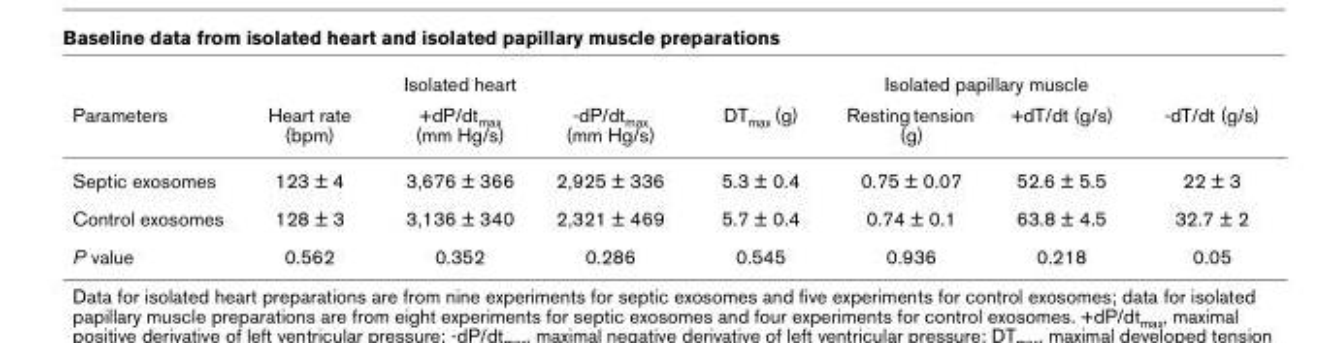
<table><thead><tr><td rowspan="2">Parameters</td><td colspan="3">Isolated heart</td><td colspan="4">Isolated papillary muscle</td></tr><tr><td>Heart rate (bpm)</td><td>+dP/dt<sub>max</sub> (mm Hg/s)</td><td>-dP/dt<sub>max</sub> (mm Hg/s)</td><td>DT<sub>max</sub> (g)</td><td>Resting tension (g)</td><td>+dT/dt (g/s)</td><td>-dT/dt (g/s)</td></tr></thead><tbody><tr><td>Septic exosomes</td><td>123 ± 4</td><td>3,676 ± 366</td><td>2,925 ± 336</td><td>5.3 ± 0.4</td><td>0.75 ± 0.07</td><td>52.6 ± 5.5</td><td>22 ± 3</td></tr><tr><td>Control exosomes</td><td>128 ± 3</td><td>3,136 ± 340</td><td>2,321 ± 469</td><td>5.7 ± 0.4</td><td>0.74 ± 0.1</td><td>63.8 ± 4.5</td><td>32.7 ± 2</td></tr><tr><td>P value</td><td>0.562</td><td>0.352</td><td>0.286</td><td>0.545</td><td>0.936</td><td>0.218</td><td>0.05</td></tr></tbody></table>